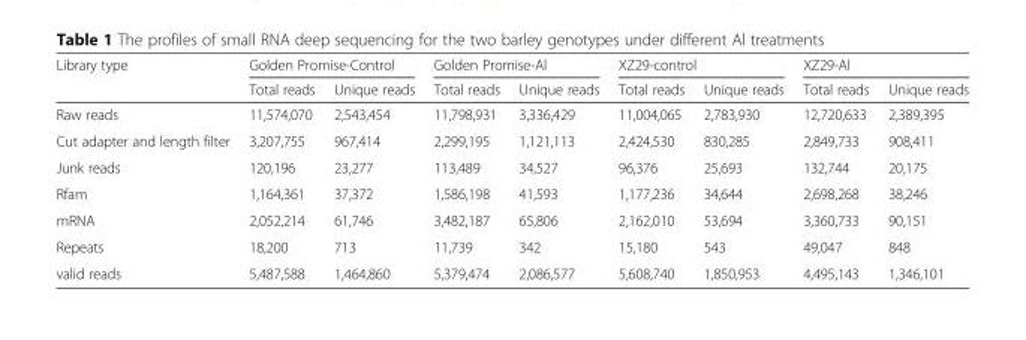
<table><thead><tr><td rowspan="2">Library type</td><td colspan="2">Golden Promise-Control</td><td colspan="2">Golden Promise-Al</td><td colspan="2">XZ29-control</td><td colspan="2">XZ29-Al</td></tr><tr><td>Total reads</td><td>Unique reads</td><td>Total reads</td><td>Unique reads</td><td>Total reads</td><td>Unique reads</td><td>Total reads</td><td>Unique reads</td></tr></thead><tbody><tr><td>Raw reads</td><td>11,574,070</td><td>2,543,454</td><td>11,798,931</td><td>3,336,429</td><td>11,004,065</td><td>2,783,930</td><td>12,720,633</td><td>2,389,395</td></tr><tr><td>Cut adapter and length filter</td><td>3,207,755</td><td>967,414</td><td>2,299,195</td><td>1,121,113</td><td>2,424,530</td><td>830,285</td><td>2,849,733</td><td>908,411</td></tr><tr><td>Junk reads</td><td>120,196</td><td>23,277</td><td>113,489</td><td>34,527</td><td>96,376</td><td>25,693</td><td>132,744</td><td>20,175</td></tr><tr><td>Rfam</td><td>1,164,361</td><td>37,372</td><td>1,586,198</td><td>41,593</td><td>1,177,236</td><td>34,644</td><td>2,698,268</td><td>38,246</td></tr><tr><td>mRNA</td><td>2,052,214</td><td>61,746</td><td>3,482,187</td><td>65,806</td><td>2,162,010</td><td>53,694</td><td>3,360,733</td><td>90,151</td></tr><tr><td>Repeats</td><td>18,200</td><td>713</td><td>11,739</td><td>342</td><td>15,180</td><td>543</td><td>49,047</td><td>848</td></tr><tr><td>valid reads</td><td>5,487,588</td><td>1,464,860</td><td>5,379,474</td><td>2,086,577</td><td>5,608,740</td><td>1,850,953</td><td>4,495,143</td><td>1,346,101</td></tr></tbody></table>